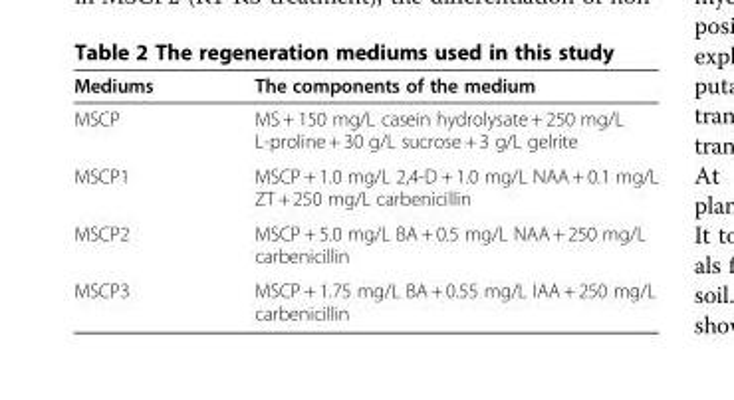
<table><thead><tr><td>Mediums</td><td>The components of the medium</td></tr></thead><tbody><tr><td>MSCP</td><td>MS + 150 mg/L casein hydrolysate + 250 mg/L L-proline + 30 g/L sucrose + 3 g/L gelrite</td></tr><tr><td>MSCP1</td><td>MSCP + 1.0 mg/L 2,4-D + 1.0 mg/L NAA + 0.1 mg/L ZT + 250 mg/L carbenicillin</td></tr><tr><td>MSCP2</td><td>MSCP + 5.0 mg/L BA + 0.5 mg/L NAA + 250 mg/L carbenicillin</td></tr><tr><td>MSCP3</td><td>MSCP + 1.75 mg/L BA + 0.55 mg/L IAA + 250 mg/L carbenicillin</td></tr></tbody></table>